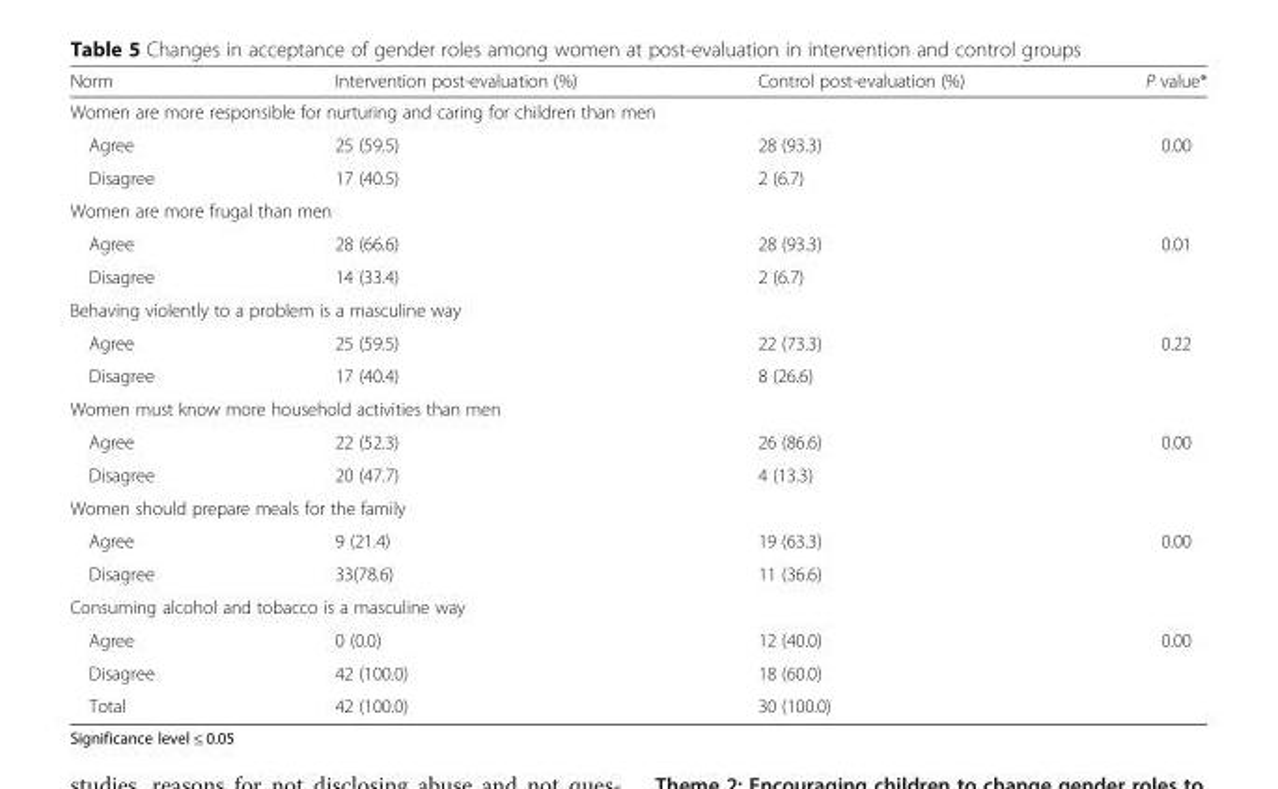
<table><thead><tr><td>Norm</td><td>Intervention post-evaluation (%)</td><td>Control post-evaluation (%)</td><td>P value*</td></tr></thead><tbody><tr><td colspan="4">Women are more responsible for nurturing and caring for children than men</td></tr><tr><td>Agree</td><td>25 (59.5)</td><td>28 (93.3)</td><td rowspan="2">0.00</td></tr><tr><td>Disagree</td><td>17 (40.5)</td><td>2 (6.7)</td></tr><tr><td colspan="4">Women are more frugal than men</td></tr><tr><td>Agree</td><td>28 (66.6)</td><td>28 (93.3)</td><td rowspan="2">0.01</td></tr><tr><td>Disagree</td><td>14 (33.4)</td><td>2 (6.7)</td></tr><tr><td colspan="4">Behaving violently to a problem is a masculine way</td></tr><tr><td>Agree</td><td>25 (59.5)</td><td>22 (73.3)</td><td rowspan="2">0.22</td></tr><tr><td>Disagree</td><td>17 (40.4)</td><td>8 (26.6)</td></tr><tr><td colspan="4">Women must know more household activities than men</td></tr><tr><td>Agree</td><td>22 (52.3)</td><td>26 (86.6)</td><td rowspan="2">0.00</td></tr><tr><td>Disagree</td><td>20 (47.7)</td><td>4 (13.3)</td></tr><tr><td colspan="4">Women should prepare meals for the family</td></tr><tr><td>Agree</td><td>9 (21.4)</td><td>19 (63.3)</td><td rowspan="2">0.00</td></tr><tr><td>Disagree</td><td>33(78.6)</td><td>11 (36.6)</td></tr><tr><td colspan="4">Consuming alcohol and tobacco is a masculine way</td></tr><tr><td>Agree</td><td>0 (0.0)</td><td>12 (40.0)</td><td rowspan="2">0.00</td></tr><tr><td>Disagree</td><td>42 (100.0)</td><td>18 (60.0)</td></tr><tr><td>Total</td><td>42 (100.0)</td><td>30 (100.0)</td><td></td></tr></tbody></table>